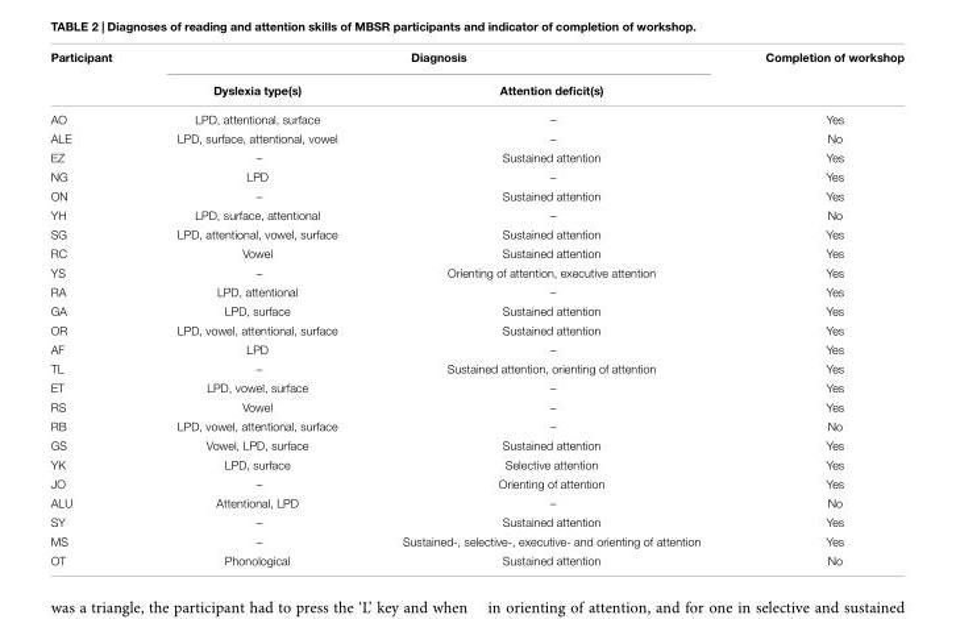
<table><thead><tr><td rowspan="2">Participant</td><td colspan="2">Diagnosis</td><td rowspan="2">Completion of workshop</td></tr><tr><td>Dyslexia type(s)</td><td>Attention deficit(s)</td></tr></thead><tbody><tr><td>AO</td><td>LPD, attentional, surface</td><td>–</td><td>Yes</td></tr><tr><td>ALE</td><td>LPD, surface, attentional, vowel</td><td>–</td><td>No</td></tr><tr><td>EZ</td><td>–</td><td>Sustained attention</td><td>Yes</td></tr><tr><td>NG</td><td>LPD</td><td>–</td><td>Yes</td></tr><tr><td>ON</td><td>–</td><td>Sustained attention</td><td>Yes</td></tr><tr><td>YH</td><td>LPD, surface, attentional</td><td>–</td><td>No</td></tr><tr><td>SG</td><td>LPD, attentional, vowel, surface</td><td>Sustained attention</td><td>Yes</td></tr><tr><td>RC</td><td>Vowel</td><td>Sustained attention</td><td>Yes</td></tr><tr><td>YS</td><td>–</td><td>Orienting of attention, executive attention</td><td>Yes</td></tr><tr><td>RA</td><td>LPD, attentional</td><td>–</td><td>Yes</td></tr><tr><td>GA</td><td>LPD, surface</td><td>Sustained attention</td><td>Yes</td></tr><tr><td>OR</td><td>LPD, vowel, attentional, surface</td><td>Sustained attention</td><td>Yes</td></tr><tr><td>AF</td><td>LPD</td><td>–</td><td>Yes</td></tr><tr><td>TL</td><td>–</td><td>Sustained attention, orienting of attention</td><td>Yes</td></tr><tr><td>ET</td><td>LPD, vowel, surface</td><td>–</td><td>Yes</td></tr><tr><td>RS</td><td>Vowel</td><td>–</td><td>Yes</td></tr><tr><td>RB</td><td>LPD, vowel, attentional, surface</td><td>–</td><td>No</td></tr><tr><td>GS</td><td>Vowel, LPD, surface</td><td>Sustained attention</td><td>Yes</td></tr><tr><td>YK</td><td>LPD, surface</td><td>Selective attention</td><td>Yes</td></tr><tr><td>JO</td><td>–</td><td>Orienting of attention</td><td>Yes</td></tr><tr><td>ALU</td><td>Attentional, LPD</td><td>–</td><td>No</td></tr><tr><td>SY</td><td>–</td><td>Sustained attention</td><td>Yes</td></tr><tr><td>MS</td><td>–</td><td>Sustained-, selective-, executive- and orienting of attention</td><td>Yes</td></tr><tr><td>OT</td><td>Phonological</td><td>Sustained attention</td><td>No</td></tr></tbody></table>